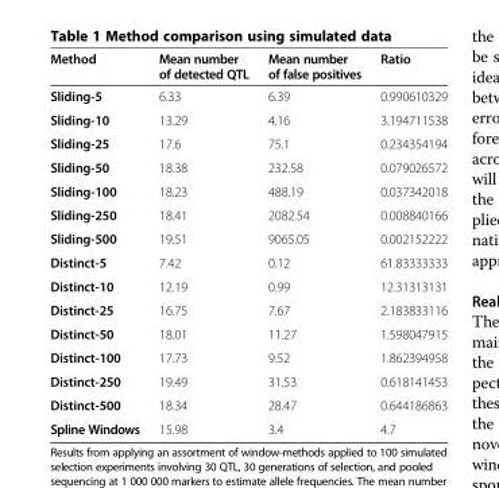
<table><thead><tr><td>Method</td><td>Mean number of detected QTL</td><td>Mean number of false positives</td><td>Ratio</td></tr></thead><tbody><tr><td>Sliding-5</td><td>6.33</td><td>6.39</td><td>0.990610329</td></tr><tr><td>Sliding-10</td><td>13.29</td><td>4.16</td><td>3.194711538</td></tr><tr><td>Sliding-25</td><td>17.6</td><td>75.1</td><td>0.234354194</td></tr><tr><td>Sliding-50</td><td>18.38</td><td>232.58</td><td>0.079026572</td></tr><tr><td>Sliding-100</td><td>18.23</td><td>488.19</td><td>0.037342018</td></tr><tr><td>Sliding-250</td><td>18.41</td><td>2082.54</td><td>0.008840166</td></tr><tr><td>Sliding-500</td><td>19.51</td><td>9065.05</td><td>0.002152222</td></tr><tr><td>Distinct-5</td><td>7.42</td><td>0.12</td><td>61.83333333</td></tr><tr><td>Distinct-10</td><td>12.19</td><td>0.99</td><td>12.31313131</td></tr><tr><td>Distinct-25</td><td>16.75</td><td>7.67</td><td>2.183833116</td></tr><tr><td>Distinct-50</td><td>18.01</td><td>11.27</td><td>1.598047915</td></tr><tr><td>Distinct-100</td><td>17.73</td><td>9.52</td><td>1.862394958</td></tr><tr><td>Distinct-250</td><td>19.49</td><td>31.53</td><td>0.618141453</td></tr><tr><td>Distinct-500</td><td>18.34</td><td>28.47</td><td>0.644186863</td></tr><tr><td>Spline Windows</td><td>15.98</td><td>3.4</td><td>4.7</td></tr></tbody></table>